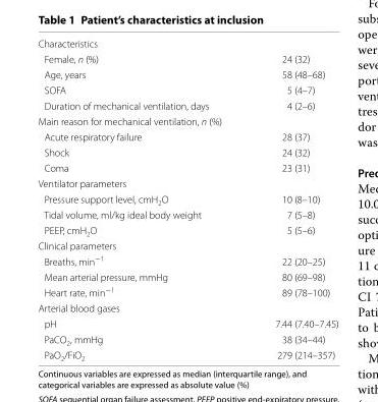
<table><tbody><tr><td colspan="2">Characteristics</td></tr><tr><td>Female, n (%)</td><td>24 (32)</td></tr><tr><td>Age, years</td><td>58 (48–68)</td></tr><tr><td>SOFA</td><td>5 (4–7)</td></tr><tr><td>Duration of mechanical ventilation, days</td><td>4 (2–6)</td></tr><tr><td colspan="2">Main reason for mechanical ventilation, n (%)</td></tr><tr><td>Acute respiratory failure</td><td>28 (37)</td></tr><tr><td>Shock</td><td>24 (32)</td></tr><tr><td>Coma</td><td>23 (31)</td></tr><tr><td colspan="2">Ventilator parameters</td></tr><tr><td>Pressure support level, cmH<sub>2</sub>O</td><td>10 (8–10)</td></tr><tr><td>Tidal volume, ml/kg ideal body weight</td><td>7 (5–8)</td></tr><tr><td>PEEP, cmH<sub>2</sub>O</td><td>5 (5–6)</td></tr><tr><td colspan="2">Clinical parameters</td></tr><tr><td>Breaths, min<sup>−1</sup></td><td>22 (20–25)</td></tr><tr><td>Mean arterial pressure, mmHg</td><td>80 (69–98)</td></tr><tr><td>Heart rate, min<sup>−1</sup></td><td>89 (78–100)</td></tr><tr><td colspan="2">Arterial blood gases</td></tr><tr><td>pH</td><td>7.44 (7.40–7.45)</td></tr><tr><td>PaCO<sub>2</sub>, mmHg</td><td>38 (34–44)</td></tr><tr><td>PaO<sub>2</sub>/FiO<sub>2</sub></td><td>279 (214–357)</td></tr></tbody></table>